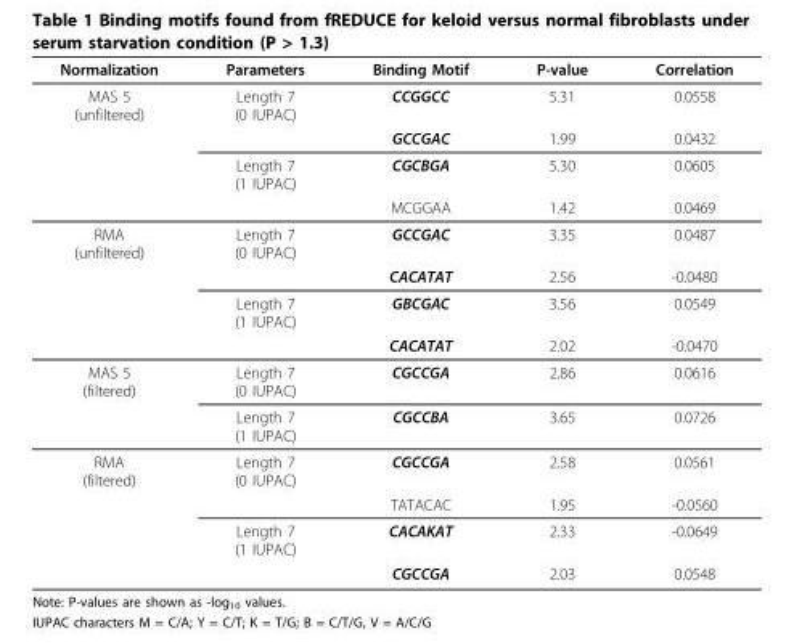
<table><thead><tr><td>Normalization</td><td>Parameters</td><td>Binding Motif</td><td>P-value</td><td>Correlation</td></tr></thead><tbody><tr><td rowspan="4">MAS 5 (unfiltered)</td><td>Length 7 (0 IUPAC)</td><td>CCGGCC</td><td>5.31</td><td>0.0558</td></tr><tr><td></td><td>GCCGAC</td><td>1.99</td><td>0.0432</td></tr><tr><td>Length 7 (1 IUPAC)</td><td>CGCBGA</td><td>5.30</td><td>0.0605</td></tr><tr><td></td><td>MCGGAA</td><td>1.42</td><td>0.0469</td></tr><tr><td rowspan="4">RMA (unfiltered)</td><td>Length 7 (0 IUPAC)</td><td>GCCGAC</td><td>3.35</td><td>0.0487</td></tr><tr><td></td><td>CACATAT</td><td>2.56</td><td>-0.0480</td></tr><tr><td>Length 7 (1 IUPAC)</td><td>GBCGAC</td><td>3.56</td><td>0.0549</td></tr><tr><td></td><td>CACATAT</td><td>2.02</td><td>-0.0470</td></tr><tr><td rowspan="2">MAS 5 (filtered)</td><td>Length 7 (0 IUPAC)</td><td>CGCCGA</td><td>2.86</td><td>0.0616</td></tr><tr><td>Length 7 (1 IUPAC)</td><td>CGCCBA</td><td>3.65</td><td>0.0726</td></tr><tr><td rowspan="4">RMA (filtered)</td><td>Length 7 (0 IUPAC)</td><td>CGCCGA</td><td>2.58</td><td>0.0561</td></tr><tr><td></td><td>TATACAC</td><td>1.95</td><td>-0.0560</td></tr><tr><td>Length 7 (1 IUPAC)</td><td>CACAKAT</td><td>2.33</td><td>-0.0649</td></tr><tr><td></td><td>CGCCGA</td><td>2.03</td><td>0.0548</td></tr></tbody></table>